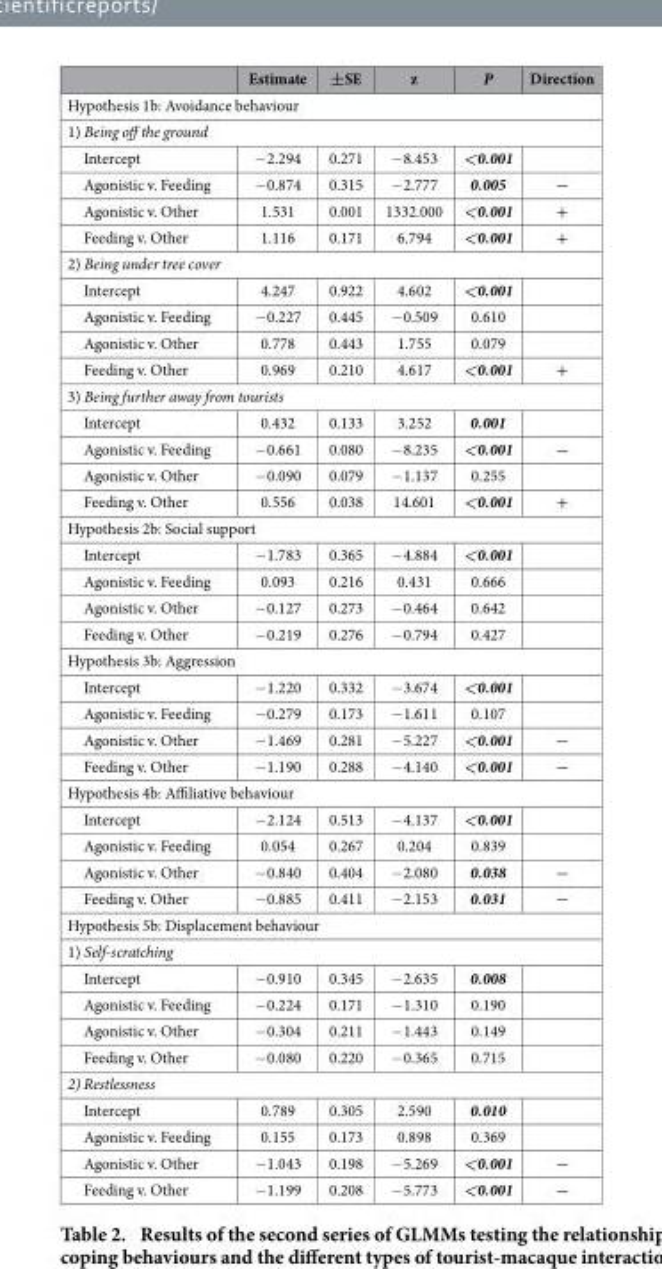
<table><thead><tr><td></td><td>Estimate</td><td>±SE</td><td>z</td><td>P</td><td>Direction</td></tr></thead><tbody><tr><td colspan="6">Hypothesis 1b: Avoidance behaviour</td></tr><tr><td colspan="6">1) Being off the ground</td></tr><tr><td>Intercept</td><td>− 2.294</td><td>0.271</td><td>− 8.453</td><td>&lt;0.001</td><td></td></tr><tr><td>Agonistic v. Feeding</td><td>− 0.874</td><td>0.315</td><td>− 2.777</td><td>0.005</td><td>−</td></tr><tr><td>Agonistic v. Other</td><td>1.531</td><td>0.001</td><td>1332.000</td><td>&lt;0.001</td><td>+</td></tr><tr><td>Feeding v. Other</td><td>1.116</td><td>0.171</td><td>6.794</td><td>&lt;0.001</td><td>+</td></tr><tr><td colspan="6">2) Being under tree cover</td></tr><tr><td>Intercept</td><td>4.247</td><td>0.922</td><td>4.602</td><td>&lt;0.001</td><td></td></tr><tr><td>Agonistic v. Feeding</td><td>− 0.227</td><td>0.445</td><td>− 0.509</td><td>0.610</td><td></td></tr><tr><td>Agonistic v. Other</td><td>0.778</td><td>0.443</td><td>1.755</td><td>0.079</td><td></td></tr><tr><td>Feeding v. Other</td><td>0.969</td><td>0.210</td><td>4.617</td><td>&lt;0.001</td><td>+</td></tr><tr><td colspan="6">3) Being further away from tourists</td></tr><tr><td>Intercept</td><td>0.432</td><td>0.133</td><td>3.252</td><td>0.001</td><td></td></tr><tr><td>Agonistic v. Feeding</td><td>− 0.661</td><td>0.080</td><td>− 8.235</td><td>&lt;0.001</td><td>−</td></tr><tr><td>Agonistic v. Other</td><td>− 0.090</td><td>0.079</td><td>− 1.137</td><td>0.255</td><td></td></tr><tr><td>Feeding v. Other</td><td>0.556</td><td>0.038</td><td>14.601</td><td>&lt;0.001</td><td>+</td></tr><tr><td colspan="6">Hypothesis 2b: Social support</td></tr><tr><td>Intercept</td><td>− 1.783</td><td>0.365</td><td>− 4.884</td><td>&lt;0.001</td><td></td></tr><tr><td>Agonistic v. Feeding</td><td>0.093</td><td>0.216</td><td>0.431</td><td>0.666</td><td></td></tr><tr><td>Agonistic v. Other</td><td>− 0.127</td><td>0.273</td><td>− 0.464</td><td>0.642</td><td></td></tr><tr><td>Feeding v. Other</td><td>− 0.219</td><td>0.276</td><td>− 0.794</td><td>0.427</td><td></td></tr><tr><td colspan="6">Hypothesis 3b: Aggression</td></tr><tr><td>Intercept</td><td>− 1.220</td><td>0.332</td><td>− 3.674</td><td>&lt;0.001</td><td></td></tr><tr><td>Agonistic v. Feeding</td><td>− 0.279</td><td>0.173</td><td>− 1.611</td><td>0.107</td><td></td></tr><tr><td>Agonistic v. Other</td><td>− 1.469</td><td>0.281</td><td>− 5.227</td><td>&lt;0.001</td><td>−</td></tr><tr><td>Feeding v. Other</td><td>− 1.190</td><td>0.288</td><td>− 4.140</td><td>&lt;0.001</td><td>−</td></tr><tr><td colspan="6">Hypothesis 4b: Affiliative behaviour</td></tr><tr><td>Intercept</td><td>− 2.124</td><td>0.513</td><td>− 4.137</td><td>&lt;0.001</td><td></td></tr><tr><td>Agonistic v. Feeding</td><td>0.054</td><td>0.267</td><td>0.204</td><td>0.839</td><td></td></tr><tr><td>Agonistic v. Other</td><td>− 0.840</td><td>0.404</td><td>− 2.080</td><td>0.038</td><td>−</td></tr><tr><td>Feeding v. Other</td><td>− 0.885</td><td>0.411</td><td>− 2.153</td><td>0.031</td><td>−</td></tr><tr><td colspan="6">Hypothesis 5b: Displacement behaviour</td></tr><tr><td colspan="6">1) Self-scratching</td></tr><tr><td>Intercept</td><td>− 0.910</td><td>0.345</td><td>− 2.635</td><td>0.008</td><td></td></tr><tr><td>Agonistic v. Feeding</td><td>− 0.224</td><td>0.171</td><td>− 1.310</td><td>0.190</td><td></td></tr><tr><td>Agonistic v. Other</td><td>− 0.304</td><td>0.211</td><td>− 1.443</td><td>0.149</td><td></td></tr><tr><td>Feeding v. Other</td><td>− 0.080</td><td>0.220</td><td>− 0.365</td><td>0.715</td><td></td></tr><tr><td colspan="6">2) Restlessness</td></tr><tr><td>Intercept</td><td>0.789</td><td>0.305</td><td>2.590</td><td>0.010</td><td></td></tr><tr><td>Agonistic v. Feeding</td><td>0.155</td><td>0.173</td><td>0.898</td><td>0.369</td><td></td></tr><tr><td>Agonistic v. Other</td><td>− 1.043</td><td>0.198</td><td>− 5.269</td><td>&lt;0.001</td><td>−</td></tr><tr><td>Feeding v. Other</td><td>− 1.199</td><td>0.208</td><td>− 5.773</td><td>&lt;0.001</td><td>−</td></tr></tbody></table>